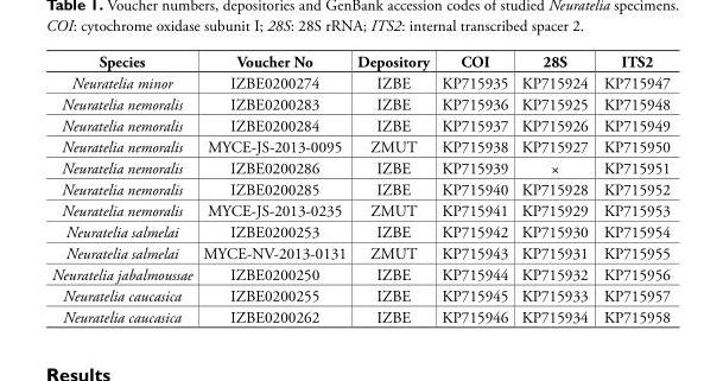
<table><thead><tr><td>Species</td><td>Voucher No</td><td>Depository</td><td>COI</td><td>28S</td><td>ITS2</td></tr></thead><tbody><tr><td>Neuratelia minor</td><td>IZBE0200274</td><td>IZBE</td><td>KP715935</td><td>KP715924</td><td>KP715947</td></tr><tr><td>Neuratelia nemoralis</td><td>IZBE0200283</td><td>IZBE</td><td>KP715936</td><td>KP715925</td><td>KP715948</td></tr><tr><td>Neuratelia nemoralis</td><td>IZBE0200284</td><td>IZBE</td><td>KP715937</td><td>KP715926</td><td>KP715949</td></tr><tr><td>Neuratelia nemoralis</td><td>MYCE-JS-2013-0095</td><td>ZMUT</td><td>KP715938</td><td>KP715927</td><td>KP715950</td></tr><tr><td>Neuratelia nemoralis</td><td>IZBE0200286</td><td>IZBE</td><td>KP715939</td><td>×</td><td>KP715951</td></tr><tr><td>Neuratelia nemoralis</td><td>IZBE0200285</td><td>IZBE</td><td>KP715940</td><td>KP715928</td><td>KP715952</td></tr><tr><td>Neuratelia nemoralis</td><td>MYCE-JS-2013-0235</td><td>ZMUT</td><td>KP715941</td><td>KP715929</td><td>KP715953</td></tr><tr><td>Neuratelia salmelai</td><td>IZBE0200253</td><td>IZBE</td><td>KP715942</td><td>KP715930</td><td>KP715954</td></tr><tr><td>Neuratelia salmelai</td><td>MYCE-NV-2013-0131</td><td>ZMUT</td><td>KP715943</td><td>KP715931</td><td>KP715955</td></tr><tr><td>Neuratelia jabalmoussae</td><td>IZBE0200250</td><td>IZBE</td><td>KP715944</td><td>KP715932</td><td>KP715956</td></tr><tr><td>Neuratelia caucasica</td><td>IZBE0200255</td><td>IZBE</td><td>KP715945</td><td>KP715933</td><td>KP715957</td></tr><tr><td>Neuratelia caucasica</td><td>IZBE0200262</td><td>IZBE</td><td>KP715946</td><td>KP715934</td><td>KP715958</td></tr></tbody></table>